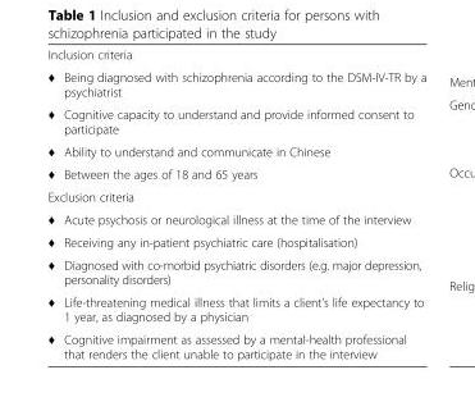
<table><tbody><tr><td colspan="2">Inclusion criteria</td></tr><tr><td>♦</td><td>Being diagnosed with schizophrenia according to the DSM-IV-TR by a psychiatrist</td></tr><tr><td>♦</td><td>Cognitive capacity to understand and provide informed consent to participate</td></tr><tr><td>♦</td><td>Ability to understand and communicate in Chinese</td></tr><tr><td>♦</td><td>Between the ages of 18 and 65 years</td></tr><tr><td colspan="2">Exclusion criteria</td></tr><tr><td>♦</td><td>Acute psychosis or neurological illness at the time of the interview</td></tr><tr><td>♦</td><td>Receiving any in-patient psychiatric care (hospitalisation)</td></tr><tr><td>♦</td><td>Diagnosed with co-morbid psychiatric disorders (e.g. major depression, personality disorders)</td></tr><tr><td>♦</td><td>Life-threatening medical illness that limits a client’s life expectancy to 1 year, as diagnosed by a physician</td></tr><tr><td>♦</td><td>Cognitive impairment as assessed by a mental-health professional that renders the client unable to participate in the interview</td></tr></tbody></table>